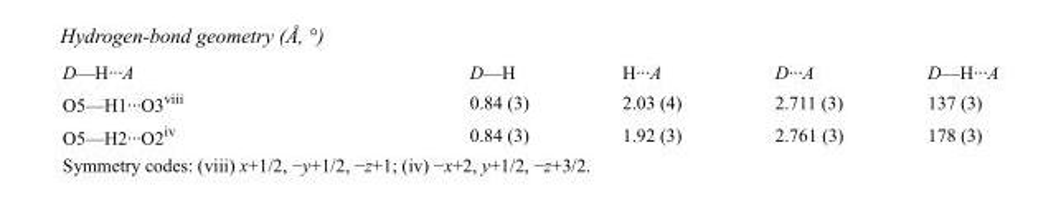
<table><tbody><tr><td>D—H···A</td><td>D—H</td><td>H···A</td><td>D···A</td><td>D—H···A</td></tr><tr><td>O5—H1···O3<sup>viii</sup></td><td>0.84 (3)</td><td>2.03 (4)</td><td>2.711 (3)</td><td>137 (3)</td></tr><tr><td>O5—H2···O2<sup>iv</sup></td><td>0.84 (3)</td><td>1.92 (3)</td><td>2.761 (3)</td><td>178 (3)</td></tr></tbody></table>